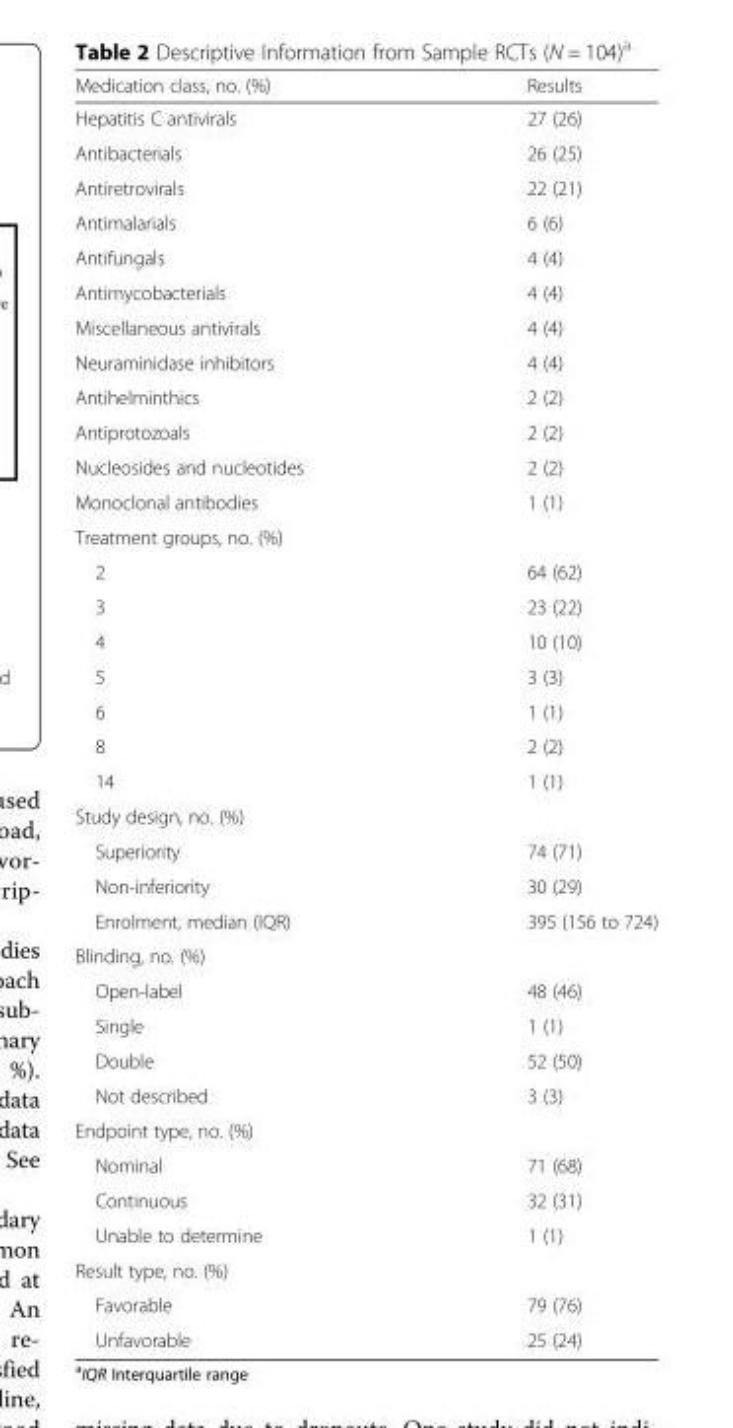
<table><thead><tr><td>Medication class, no. (%)</td><td>Results</td></tr></thead><tbody><tr><td>Hepatitis C antivirals</td><td>27 (26)</td></tr><tr><td>Antibacterials</td><td>26 (25)</td></tr><tr><td>Antiretrovirals</td><td>22 (21)</td></tr><tr><td>Antimalarials</td><td>6 (6)</td></tr><tr><td>Antifungals</td><td>4 (4)</td></tr><tr><td>Antimycobacterials</td><td>4 (4)</td></tr><tr><td>Miscellaneous antivirals</td><td>4 (4)</td></tr><tr><td>Neuraminidase inhibitors</td><td>4 (4)</td></tr><tr><td>Antihelminthics</td><td>2 (2)</td></tr><tr><td>Antiprotozoals</td><td>2 (2)</td></tr><tr><td>Nucleosides and nucleotides</td><td>2 (2)</td></tr><tr><td>Monoclonal antibodies</td><td>1 (1)</td></tr><tr><td colspan="2">Treatment groups, no. (%)</td></tr><tr><td>2</td><td>64 (62)</td></tr><tr><td>3</td><td>23 (22)</td></tr><tr><td>4</td><td>10 (10)</td></tr><tr><td>5</td><td>3 (3)</td></tr><tr><td>6</td><td>1 (1)</td></tr><tr><td>8</td><td>2 (2)</td></tr><tr><td>14</td><td>1 (1)</td></tr><tr><td colspan="2">Study design, no. (%)</td></tr><tr><td>Superiority</td><td>74 (71)</td></tr><tr><td>Non-inferiority</td><td>30 (29)</td></tr><tr><td>Enrolment, median (IQR)</td><td>395 (156 to 724)</td></tr><tr><td colspan="2">Blinding, no. (%)</td></tr><tr><td>Open-label</td><td>48 (46)</td></tr><tr><td>Single</td><td>1 (1)</td></tr><tr><td>Double</td><td>52 (50)</td></tr><tr><td>Not described</td><td>3 (3)</td></tr><tr><td colspan="2">Endpoint type, no. (%)</td></tr><tr><td>Nominal</td><td>71 (68)</td></tr><tr><td>Continuous</td><td>32 (31)</td></tr><tr><td>Unable to determine</td><td>1 (1)</td></tr><tr><td colspan="2">Result type, no. (%)</td></tr><tr><td>Favorable</td><td>79 (76)</td></tr><tr><td>Unfavorable</td><td>25 (24)</td></tr></tbody></table>